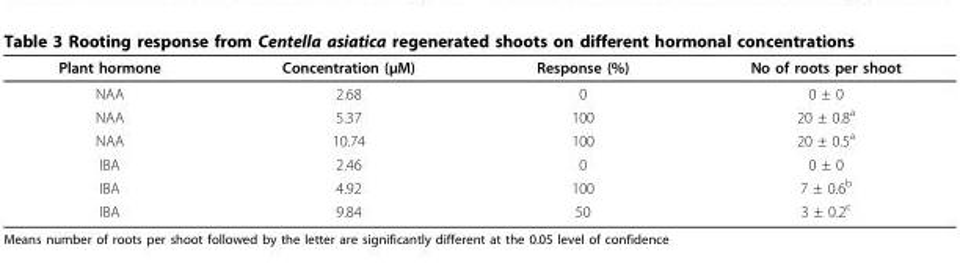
<table><thead><tr><td>Plant hormone</td><td>Concentration (μM)</td><td>Response (%)</td><td>No of roots per shoot</td></tr></thead><tbody><tr><td>NAA</td><td>2.68</td><td>0</td><td>0 ± 0</td></tr><tr><td>NAA</td><td>5.37</td><td>100</td><td>20 ± 0.8<sup>a</sup></td></tr><tr><td>NAA</td><td>10.74</td><td>100</td><td>20 ± 0.5<sup>a</sup></td></tr><tr><td>IBA</td><td>2.46</td><td>0</td><td>0 ± 0</td></tr><tr><td>IBA</td><td>4.92</td><td>100</td><td>7 ± 0.6<sup>b</sup></td></tr><tr><td>IBA</td><td>9.84</td><td>50</td><td>3 ± 0.2<sup>c</sup></td></tr></tbody></table>